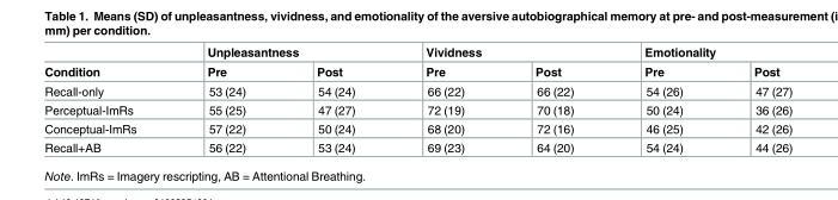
<table><thead><tr><td rowspan="2">Condition</td><td colspan="2">Unpleasantness</td><td colspan="2">Vividness</td><td colspan="2">Emotionality</td></tr><tr><td>Pre</td><td>Post</td><td>Pre</td><td>Post</td><td>Pre</td><td>Post</td></tr></thead><tbody><tr><td>Recall-only</td><td>53 (24)</td><td>54 (24)</td><td>66 (22)</td><td>66 (22)</td><td>54 (26)</td><td>47 (27)</td></tr><tr><td>Perceptual-ImRs</td><td>55 (25)</td><td>47 (27)</td><td>72 (19)</td><td>70 (18)</td><td>50 (24)</td><td>36 (26)</td></tr><tr><td>Conceptual-ImRs</td><td>57 (22)</td><td>50 (24)</td><td>68 (20)</td><td>72 (16)</td><td>46 (25)</td><td>42 (26)</td></tr><tr><td>Recall+AB</td><td>56 (22)</td><td>53 (24)</td><td>69 (23)</td><td>64 (20)</td><td>54 (24)</td><td>44 (26)</td></tr></tbody></table>